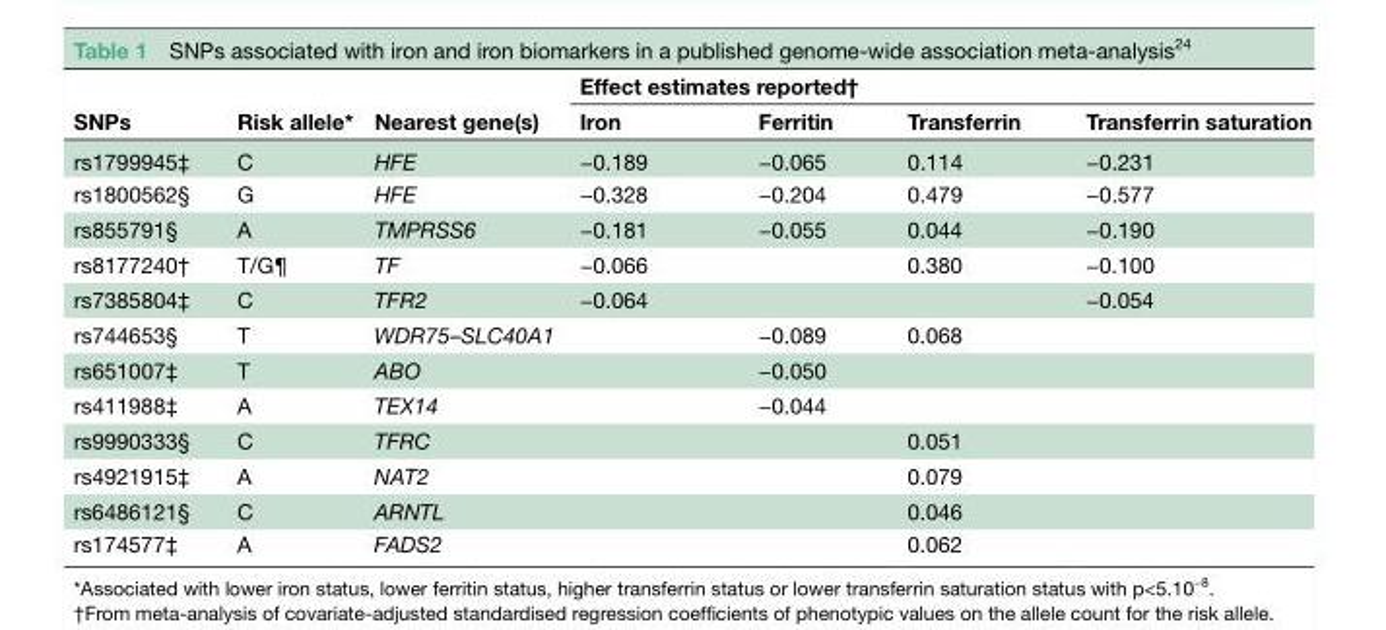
<table><thead><tr><td rowspan="2">SNPs</td><td rowspan="2">Risk allele*</td><td rowspan="2">Nearest gene(s)</td><td colspan="4">Effect estimates reported†</td></tr><tr><td>Iron</td><td>Ferritin</td><td>Transferrin</td><td>Transferrin saturation</td></tr></thead><tbody><tr><td>rs1799945‡</td><td>C</td><td>HFE</td><td>−0.189</td><td>−0.065</td><td>0.114</td><td>−0.231</td></tr><tr><td>rs1800562§</td><td>G</td><td>HFE</td><td>−0.328</td><td>−0.204</td><td>0.479</td><td>−0.577</td></tr><tr><td>rs855791§</td><td>A</td><td>TMPRSS6</td><td>−0.181</td><td>−0.055</td><td>0.044</td><td>−0.190</td></tr><tr><td>rs8177240†</td><td>T/G¶</td><td>TF</td><td>−0.066</td><td></td><td>0.380</td><td>−0.100</td></tr><tr><td>rs7385804‡</td><td>C</td><td>TFR2</td><td>−0.064</td><td></td><td></td><td>−0.054</td></tr><tr><td>rs744653§</td><td>T</td><td>WDR75–SLC40A1</td><td></td><td>−0.089</td><td>0.068</td><td></td></tr><tr><td>rs651007‡</td><td>T</td><td>ABO</td><td></td><td>−0.050</td><td></td><td></td></tr><tr><td>rs411988‡</td><td>A</td><td>TEX14</td><td></td><td>−0.044</td><td></td><td></td></tr><tr><td>rs9990333§</td><td>C</td><td>TFRC</td><td></td><td></td><td>0.051</td><td></td></tr><tr><td>rs4921915‡</td><td>A</td><td>NAT2</td><td></td><td></td><td>0.079</td><td></td></tr><tr><td>rs6486121§</td><td>C</td><td>ARNTL</td><td></td><td></td><td>0.046</td><td></td></tr><tr><td>rs174577‡</td><td>A</td><td>FADS2</td><td></td><td></td><td>0.062</td><td></td></tr></tbody></table>